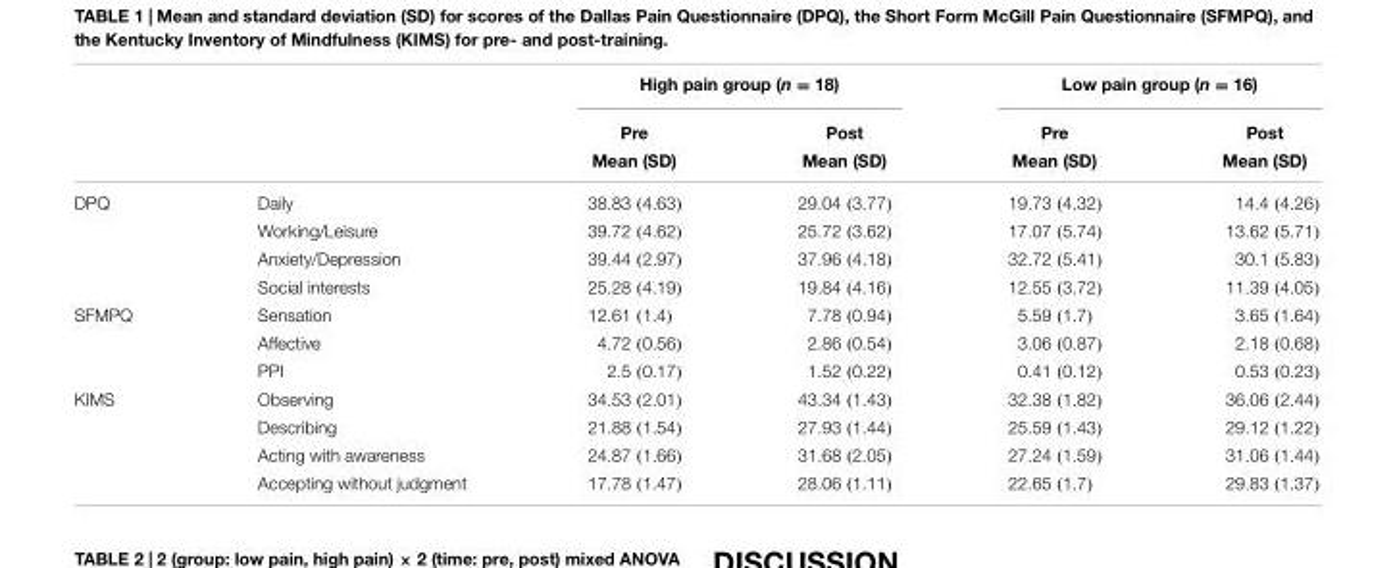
<table><thead><tr><td rowspan="3"></td><td rowspan="3"></td><td colspan="2">High pain group (n = 18)</td><td colspan="2">Low pain group (n = 16)</td></tr><tr><td rowspan="2">Pre Mean (SD)</td><td rowspan="2">Post Mean (SD)</td><td rowspan="2">Pre Mean (SD)</td><td rowspan="2">Post Mean (SD)</td></tr><tr></tr></thead><tbody><tr><td rowspan="4">DPQ</td><td>Daily</td><td>38.83 (4.63)</td><td>29.04 (3.77)</td><td>19.73 (4.32)</td><td>14.4 (4.26)</td></tr><tr><td>Working/Leisure</td><td>39.72 (4.62)</td><td>25.72 (3.62)</td><td>17.07 (5.74)</td><td>13.62 (5.71)</td></tr><tr><td>Anxiety/Depression</td><td>39.44 (2.97)</td><td>37.96 (4.18)</td><td>32.72 (5.41)</td><td>30.1 (5.83)</td></tr><tr><td>Social interests</td><td>25.28 (4.19)</td><td>19.84 (4.16)</td><td>12.55 (3.72)</td><td>11.39 (4.05)</td></tr><tr><td rowspan="3">SFMPQ</td><td>Sensation</td><td>12.61 (1.4)</td><td>7.78 (0.94)</td><td>5.59 (1.7)</td><td>3.65 (1.64)</td></tr><tr><td>Affective</td><td>4.72 (0.56)</td><td>2.86 (0.54)</td><td>3.06 (0.87)</td><td>2.18 (0.68)</td></tr><tr><td>PPI</td><td>2.5 (0.17)</td><td>1.52 (0.22)</td><td>0.41 (0.12)</td><td>0.53 (0.23)</td></tr><tr><td rowspan="4">KIMS</td><td>Observing</td><td>34.53 (2.01)</td><td>43.34 (1.43)</td><td>32.38 (1.82)</td><td>36.06 (2.44)</td></tr><tr><td>Describing</td><td>21.88 (1.54)</td><td>27.93 (1.44)</td><td>25.59 (1.43)</td><td>29.12 (1.22)</td></tr><tr><td>Acting with awareness</td><td>24.87 (1.66)</td><td>31.68 (2.05)</td><td>27.24 (1.59)</td><td>31.06 (1.44)</td></tr><tr><td>Accepting without judgment</td><td>17.78 (1.47)</td><td>28.06 (1.11)</td><td>22.65 (1.7)</td><td>29.83 (1.37)</td></tr></tbody></table>